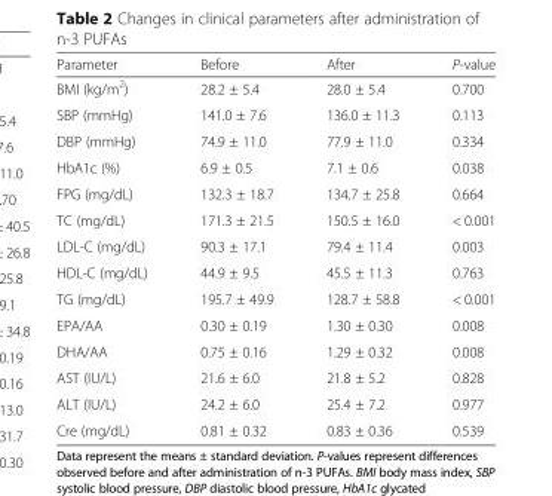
<table><thead><tr><td>Parameter</td><td>Before</td><td>After</td><td>P-value</td></tr></thead><tbody><tr><td>BMI (kg/m<sup>2</sup>)</td><td>28.2 ± 5.4</td><td>28.0 ± 5.4</td><td>0.700</td></tr><tr><td>SBP (mmHg)</td><td>141.0 ± 7.6</td><td>136.0 ± 11.3</td><td>0.113</td></tr><tr><td>DBP (mmHg)</td><td>74.9 ± 11.0</td><td>77.9 ± 11.0</td><td>0.334</td></tr><tr><td>HbA1c (%)</td><td>6.9 ± 0.5</td><td>7.1 ± 0.6</td><td>0.038</td></tr><tr><td>FPG (mg/dL)</td><td>132.3 ± 18.7</td><td>134.7 ± 25.8</td><td>0.664</td></tr><tr><td>TC (mg/dL)</td><td>171.3 ± 21.5</td><td>150.5 ± 16.0</td><td>&lt; 0.001</td></tr><tr><td>LDL-C (mg/dL)</td><td>90.3 ± 17.1</td><td>79.4 ± 11.4</td><td>0.003</td></tr><tr><td>HDL-C (mg/dL)</td><td>44.9 ± 9.5</td><td>45.5 ± 11.3</td><td>0.763</td></tr><tr><td>TG (mg/dL)</td><td>195.7 ± 49.9</td><td>128.7 ± 58.8</td><td>&lt; 0.001</td></tr><tr><td>EPA/AA</td><td>0.30 ± 0.19</td><td>1.30 ± 0.30</td><td>0.008</td></tr><tr><td>DHA/AA</td><td>0.75 ± 0.16</td><td>1.29 ± 0.32</td><td>0.008</td></tr><tr><td>AST (IU/L)</td><td>21.6 ± 6.0</td><td>21.8 ± 5.2</td><td>0.828</td></tr><tr><td>ALT (IU/L)</td><td>24.2 ± 6.0</td><td>25.4 ± 7.2</td><td>0.977</td></tr><tr><td>Cre (mg/dL)</td><td>0.81 ± 0.32</td><td>0.83 ± 0.36</td><td>0.539</td></tr></tbody></table>